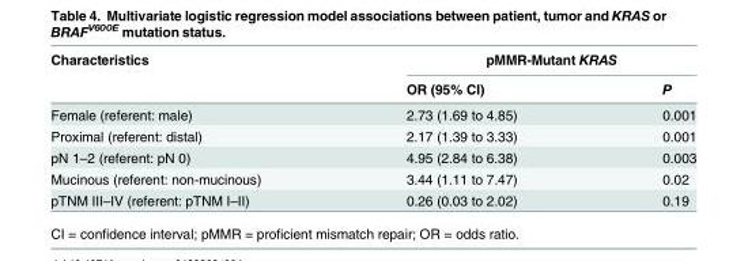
<table><thead><tr><td rowspan="2">Characteristics</td><td colspan="2">pMMR-Mutant KRAS</td></tr><tr><td>OR (95% CI)</td><td>P</td></tr></thead><tbody><tr><td>Female (referent: male)</td><td>2.73 (1.69 to 4.85)</td><td>0.001</td></tr><tr><td>Proximal (referent: distal)</td><td>2.17 (1.39 to 3.33)</td><td>0.001</td></tr><tr><td>pN 1–2 (referent: pN 0)</td><td>4.95 (2.84 to 6.38)</td><td>0.003</td></tr><tr><td>Mucinous (referent: non-mucinous)</td><td>3.44 (1.11 to 7.47)</td><td>0.02</td></tr><tr><td>pTNM III–IV (referent: pTNM I–II)</td><td>0.26 (0.03 to 2.02)</td><td>0.19</td></tr></tbody></table>